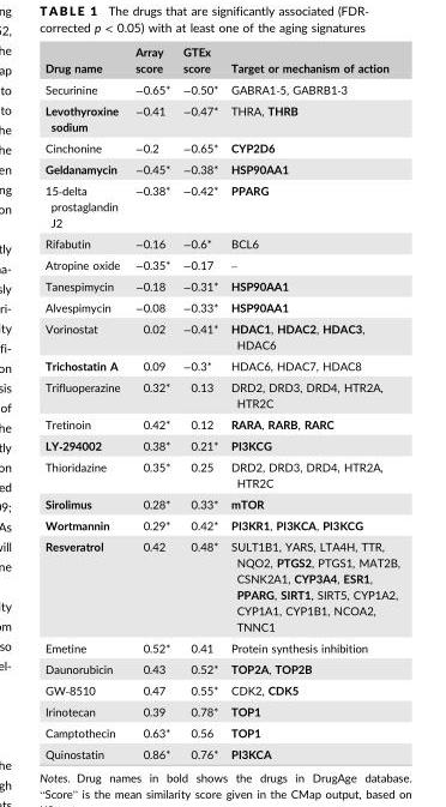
<table><thead><tr><td>Drug name</td><td>Array score</td><td>GTEx score</td><td>Target or mechanism of action</td></tr></thead><tbody><tr><td>Securinine</td><td>−0.65*</td><td>−0.50*</td><td>GABRA1‐5, GABRB1‐3</td></tr><tr><td>Levothyroxine sodium</td><td>−0.41</td><td>−0.47*</td><td>THRA, THRB</td></tr><tr><td>Cinchonine</td><td>−0.2</td><td>−0.65*</td><td>CYP2D6</td></tr><tr><td>Geldanamycin</td><td>−0.45*</td><td>−0.38*</td><td>HSP90AA1</td></tr><tr><td>15‐delta prostaglandin J2</td><td>−0.38*</td><td>−0.42*</td><td>PPARG</td></tr><tr><td>Rifabutin</td><td>−0.16</td><td>−0.6*</td><td>BCL6</td></tr><tr><td>Atropine oxide</td><td>−0.35*</td><td>−0.17</td><td>–</td></tr><tr><td>Tanespimycin</td><td>−0.18</td><td>−0.31*</td><td>HSP90AA1</td></tr><tr><td>Alvespimycin</td><td>−0.08</td><td>−0.33*</td><td>HSP90AA1</td></tr><tr><td>Vorinostat</td><td>0.02</td><td>−0.41*</td><td>HDAC1, HDAC2, HDAC3, HDAC6</td></tr><tr><td>Trichostatin A</td><td>0.09</td><td>−0.3*</td><td>HDAC6, HDAC7, HDAC8</td></tr><tr><td>Trifluoperazine</td><td>0.32*</td><td>0.13</td><td>DRD2, DRD3, DRD4, HTR2A, HTR2C</td></tr><tr><td>Tretinoin</td><td>0.42*</td><td>0.12</td><td>RARA, RARB, RARC</td></tr><tr><td>LY‐294002</td><td>0.38*</td><td>0.21*</td><td>PI3KCG</td></tr><tr><td>Thioridazine</td><td>0.35*</td><td>0.25</td><td>DRD2, DRD3, DRD4, HTR2A, HTR2C</td></tr><tr><td>Sirolimus</td><td>0.28*</td><td>0.33*</td><td>mTOR</td></tr><tr><td>Wortmannin</td><td>0.29*</td><td>0.42*</td><td>PI3KR1, PI3KCA, PI3KCG</td></tr><tr><td>Resveratrol</td><td>0.42</td><td>0.48*</td><td>SULT1B1, YARS, LTA4H, TTR, NQO2, PTGS2, PTGS1, MAT2B, CSNK2A1, CYP3A4, ESR1, PPARG, SIRT1, SIRT5, CYP1A2, CYP1A1, CYP1B1, NCOA2, TNNC1</td></tr><tr><td>Emetine</td><td>0.52*</td><td>0.41</td><td>Protein synthesis inhibition</td></tr><tr><td>Daunorubicin</td><td>0.43</td><td>0.52*</td><td>TOP2A, TOP2B</td></tr><tr><td>GW‐8510</td><td>0.47</td><td>0.55*</td><td>CDK2, CDK5</td></tr><tr><td>Irinotecan</td><td>0.39</td><td>0.78*</td><td>TOP1</td></tr><tr><td>Camptothecin</td><td>0.63*</td><td>0.56</td><td>TOP1</td></tr><tr><td>Quinostatin</td><td>0.86*</td><td>0.76*</td><td>PI3KCA</td></tr></tbody></table>